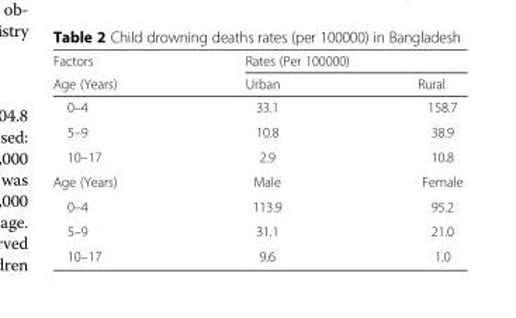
<table><thead><tr><td rowspan="2">Factors Age (Years)</td><td colspan="2">Rates (Per 100000)</td></tr><tr><td>Urban</td><td>Rural</td></tr></thead><tbody><tr><td>0–4</td><td>33.1</td><td>158.7</td></tr><tr><td>5–9</td><td>10.8</td><td>38.9</td></tr><tr><td>10–17</td><td>2.9</td><td>10.8</td></tr><tr><td>Age (Years)</td><td>Male</td><td>Female</td></tr><tr><td>0–4</td><td>113.9</td><td>95.2</td></tr><tr><td>5–9</td><td>31.1</td><td>21.0</td></tr><tr><td>10–17</td><td>9.6</td><td>1.0</td></tr></tbody></table>